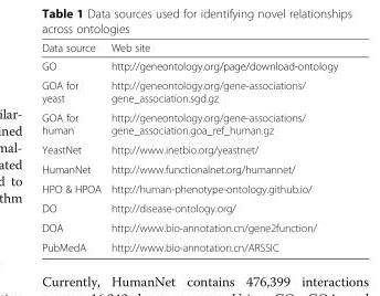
<table><thead><tr><td>Data source</td><td>Web site</td></tr></thead><tbody><tr><td>GO</td><td>http://geneontology.org/page/download-ontology</td></tr><tr><td>GOA for yeast</td><td>http://geneontology.org/gene-associations/ gene_association.sgd.gz</td></tr><tr><td>GOA for human</td><td>http://geneontology.org/gene-associations/ gene_association.goa_ref_human.gz</td></tr><tr><td>YeastNet</td><td>http://www.inetbio.org/yeastnet/</td></tr><tr><td>HumanNet</td><td>http://www.functionalnet.org/humannet/</td></tr><tr><td>HPO &amp; HPOA</td><td>http://human-phenotype-ontology.github.io/</td></tr><tr><td>DO</td><td>http://disease-ontology.org/</td></tr><tr><td>DOA</td><td>http://www.bio-annotation.cn/gene2function/</td></tr><tr><td>PubMedA</td><td>http://www.bio-annotation.cn/ARSSIC</td></tr></tbody></table>